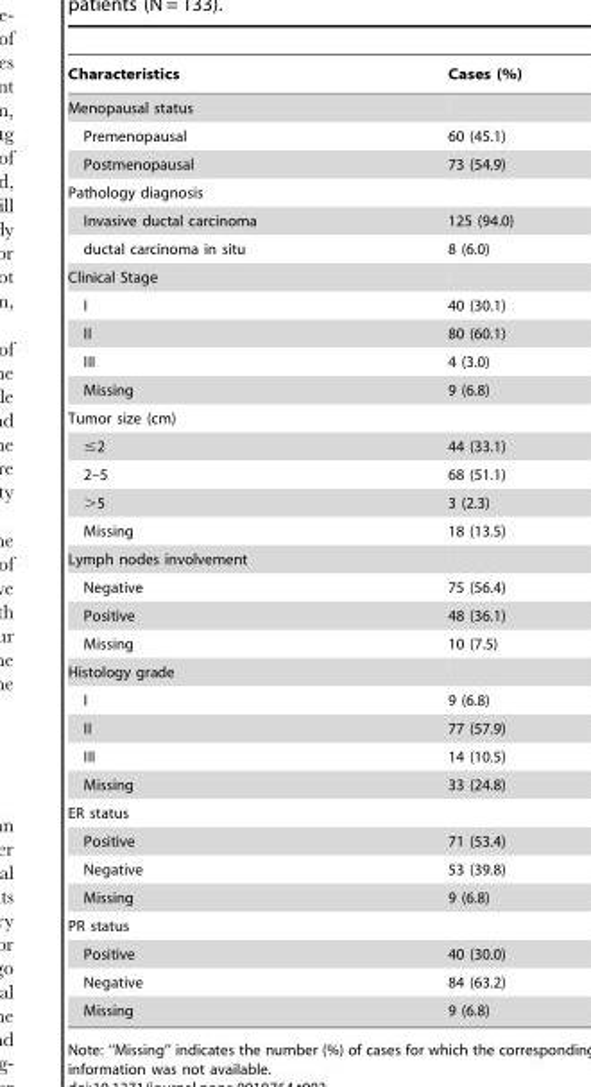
<table><thead><tr><td>Characteristics</td><td>Cases (%)</td></tr></thead><tbody><tr><td colspan="2">Menopausal status</td></tr><tr><td>Premenopausal</td><td>60 (45.1)</td></tr><tr><td>Postmenopausal</td><td>73 (54.9)</td></tr><tr><td colspan="2">Pathology diagnosis</td></tr><tr><td>Invasive ductal carcinoma</td><td>125 (94.0)</td></tr><tr><td>ductal carcinoma in situ</td><td>8 (6.0)</td></tr><tr><td colspan="2">Clinical Stage</td></tr><tr><td>I</td><td>40 (30.1)</td></tr><tr><td>II</td><td>80 (60.1)</td></tr><tr><td>III</td><td>4 (3.0)</td></tr><tr><td>Missing</td><td>9 (6.8)</td></tr><tr><td colspan="2">Tumor size (cm)</td></tr><tr><td>≤2</td><td>44 (33.1)</td></tr><tr><td>2–5</td><td>68 (51.1)</td></tr><tr><td>&gt;5</td><td>3 (2.3)</td></tr><tr><td>Missing</td><td>18 (13.5)</td></tr><tr><td colspan="2">Lymph nodes involvement</td></tr><tr><td>Negative</td><td>75 (56.4)</td></tr><tr><td>Positive</td><td>48 (36.1)</td></tr><tr><td>Missing</td><td>10 (7.5)</td></tr><tr><td colspan="2">Histology grade</td></tr><tr><td>I</td><td>9 (6.8)</td></tr><tr><td>II</td><td>77 (57.9)</td></tr><tr><td>III</td><td>14 (10.5)</td></tr><tr><td>Missing</td><td>33 (24.8)</td></tr><tr><td colspan="2">ER status</td></tr><tr><td>Positive</td><td>71 (53.4)</td></tr><tr><td>Negative</td><td>53 (39.8)</td></tr><tr><td>Missing</td><td>9 (6.8)</td></tr><tr><td colspan="2">PR status</td></tr><tr><td>Positive</td><td>40 (30.0)</td></tr><tr><td>Negative</td><td>84 (63.2)</td></tr><tr><td>Missing</td><td>9 (6.8)</td></tr></tbody></table>